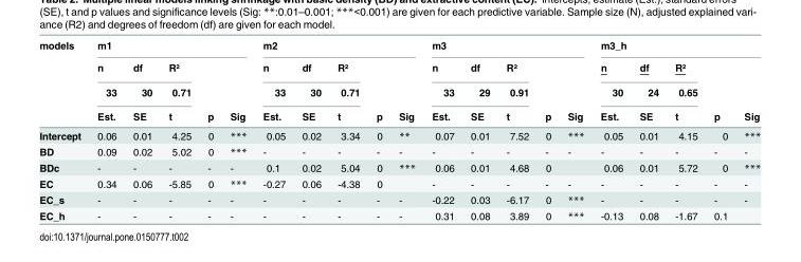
<table><thead><tr><td rowspan="4">models</td><td colspan="5">m1</td><td colspan="5">m2</td><td colspan="5">m3</td><td colspan="5">m3_h</td></tr><tr><td rowspan="3">n 33 Est.</td><td rowspan="3">df 30 SE</td><td rowspan="3">R² 0.71 t</td><td rowspan="3">p</td><td rowspan="3">Sig</td><td rowspan="3">n 33 Est.</td><td rowspan="3">df 30 SE</td><td rowspan="3">R² 0.71 t</td><td rowspan="3">p</td><td rowspan="3">Sig</td><td rowspan="3">n 33 Est.</td><td rowspan="3">df 29 SE</td><td rowspan="3">R² 0.91 t</td><td rowspan="3">p</td><td rowspan="3">Sig</td><td rowspan="3">n 30 Est.</td><td rowspan="3">df 24 SE</td><td rowspan="3">R² 0.65 t</td><td rowspan="3">p</td><td rowspan="3">Sig</td></tr><tr></tr><tr></tr></thead><tbody><tr><td>Intercept</td><td>0.06</td><td>0.01</td><td>4.25</td><td>0</td><td>***</td><td>0.05</td><td>0.02</td><td>3.34</td><td>0</td><td>**</td><td>0.07</td><td>0.01</td><td>7.52</td><td>0</td><td>***</td><td>0.05</td><td>0.01</td><td>4.15</td><td>0</td><td>***</td></tr><tr><td>BD</td><td>0.09</td><td>0.02</td><td>5.02</td><td>0</td><td>***</td><td>-</td><td>-</td><td>-</td><td>-</td><td>-</td><td>-</td><td>-</td><td>-</td><td>-</td><td>-</td><td>-</td><td>-</td><td>-</td><td>-</td><td>-</td></tr><tr><td>BDc</td><td>-</td><td>-</td><td>-</td><td>-</td><td>-</td><td>0.1</td><td>0.02</td><td>5.04</td><td>0</td><td>***</td><td>0.06</td><td>0.01</td><td>4.68</td><td>0</td><td></td><td>0.06</td><td>0.01</td><td>5.72</td><td>0</td><td>***</td></tr><tr><td>EC</td><td>0.34</td><td>0.06</td><td>-5.85</td><td>0</td><td>***</td><td>-0.27</td><td>0.06</td><td>-4.38</td><td>0</td><td></td><td>-</td><td>-</td><td>-</td><td>-</td><td>-</td><td>-</td><td>-</td><td>-</td><td>-</td><td>-</td></tr><tr><td>EC_s</td><td>-</td><td>-</td><td>-</td><td>-</td><td>-</td><td>-</td><td>-</td><td>-</td><td>-</td><td>-</td><td>-0.22</td><td>0.03</td><td>-6.17</td><td>0</td><td>***</td><td>-</td><td>-</td><td>-</td><td>-</td><td>-</td></tr><tr><td>EC_h</td><td>-</td><td>-</td><td>-</td><td>-</td><td>-</td><td>-</td><td>-</td><td>-</td><td>-</td><td>-</td><td>0.31</td><td>0.08</td><td>3.89</td><td>0</td><td>***</td><td>-0.13</td><td>0.08</td><td>-1.67</td><td>0.1</td><td></td></tr></tbody></table>